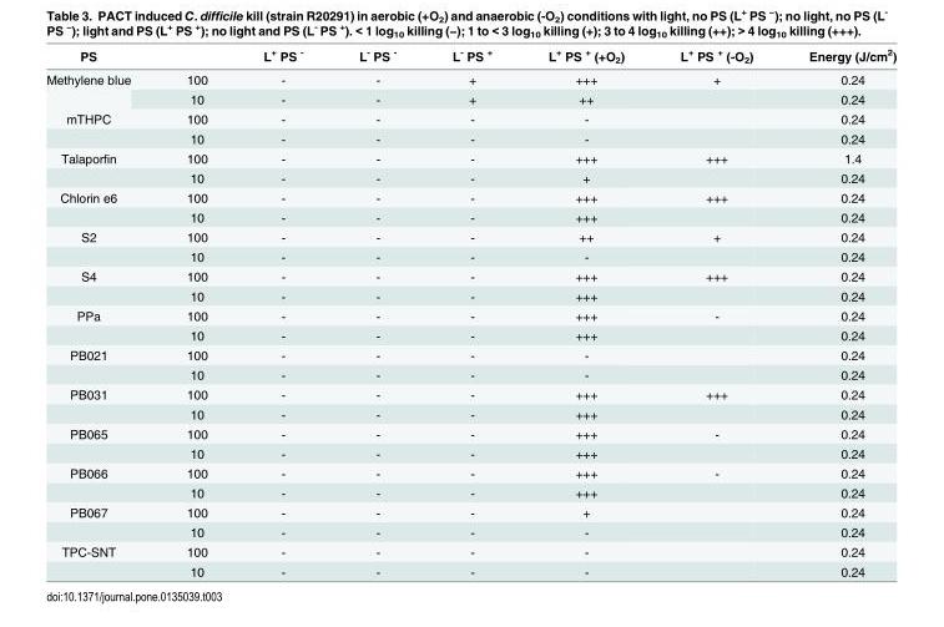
<table><thead><tr><td>PS</td><td></td><td>L<sup>+</sup> PS <sup>-</sup></td><td>L<sup>-</sup> PS <sup>-</sup></td><td>L<sup>-</sup> PS <sup>+</sup></td><td>L<sup>+</sup> PS <sup>+</sup> (+O<sub>2</sub>)</td><td>L<sup>+</sup> PS <sup>+</sup> (-O<sub>2</sub>)</td><td>Energy (J/cm<sup>2</sup>)</td></tr></thead><tbody><tr><td rowspan="2">Methylene blue</td><td>100</td><td>-</td><td>-</td><td>+</td><td>+++</td><td>+</td><td>0.24</td></tr><tr><td>10</td><td>-</td><td>-</td><td>+</td><td>++</td><td></td><td>0.24</td></tr><tr><td rowspan="2">mTHPC</td><td>100</td><td>-</td><td>-</td><td>-</td><td>-</td><td></td><td>0.24</td></tr><tr><td>10</td><td>-</td><td>-</td><td>-</td><td>-</td><td></td><td>0.24</td></tr><tr><td rowspan="2">Talaporfin</td><td>100</td><td>-</td><td>-</td><td>-</td><td>+++</td><td>+++</td><td>1.4</td></tr><tr><td>10</td><td>-</td><td>-</td><td>-</td><td>+</td><td></td><td>0.24</td></tr><tr><td rowspan="2">Chlorin e6</td><td>100</td><td>-</td><td>-</td><td>-</td><td>+++</td><td>+++</td><td>0.24</td></tr><tr><td>10</td><td>-</td><td>-</td><td>-</td><td>+++</td><td></td><td>0.24</td></tr><tr><td rowspan="2">S2</td><td>100</td><td>-</td><td>-</td><td>-</td><td>++</td><td>+</td><td>0.24</td></tr><tr><td>10</td><td>-</td><td>-</td><td>-</td><td>-</td><td></td><td>0.24</td></tr><tr><td rowspan="2">S4</td><td>100</td><td>-</td><td>-</td><td>-</td><td>+++</td><td>+++</td><td>0.24</td></tr><tr><td>10</td><td>-</td><td>-</td><td>-</td><td>+++</td><td></td><td>0.24</td></tr><tr><td rowspan="2">PPa</td><td>100</td><td>-</td><td>-</td><td>-</td><td>+++</td><td>-</td><td>0.24</td></tr><tr><td>10</td><td>-</td><td>-</td><td>-</td><td>+++</td><td></td><td>0.24</td></tr><tr><td rowspan="2">PB021</td><td>100</td><td>-</td><td>-</td><td>-</td><td>-</td><td></td><td>0.24</td></tr><tr><td>10</td><td>-</td><td>-</td><td>-</td><td>-</td><td></td><td>0.24</td></tr><tr><td rowspan="2">PB031</td><td>100</td><td>-</td><td>-</td><td>-</td><td>+++</td><td>+++</td><td>0.24</td></tr><tr><td>10</td><td>-</td><td>-</td><td>-</td><td>+++</td><td></td><td>0.24</td></tr><tr><td rowspan="2">PB065</td><td>100</td><td>-</td><td>-</td><td>-</td><td>+++</td><td>-</td><td>0.24</td></tr><tr><td>10</td><td>-</td><td>-</td><td>-</td><td>+++</td><td></td><td>0.24</td></tr><tr><td rowspan="2">PB066</td><td>100</td><td>-</td><td>-</td><td>-</td><td>+++</td><td>-</td><td>0.24</td></tr><tr><td>10</td><td>-</td><td>-</td><td>-</td><td>+++</td><td></td><td>0.24</td></tr><tr><td rowspan="2">PB067</td><td>100</td><td>-</td><td>-</td><td>-</td><td>+</td><td></td><td>0.24</td></tr><tr><td>10</td><td>-</td><td>-</td><td>-</td><td>-</td><td></td><td>0.24</td></tr><tr><td rowspan="2">TPC-SNT</td><td>100</td><td>-</td><td>-</td><td>-</td><td>-</td><td></td><td>0.24</td></tr><tr><td>10</td><td>-</td><td>-</td><td>-</td><td>-</td><td></td><td>0.24</td></tr></tbody></table>